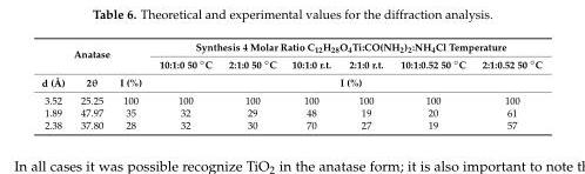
<table><thead><tr><td rowspan="2" colspan="3">Anatase</td><td colspan="6">Synthesis 4 Molar Ratio C<sub>12</sub>H<sub>28</sub>O<sub>4</sub>Ti:CO(NH<sub>2</sub>)<sub>2</sub>:NH<sub>4</sub>Cl Temperature</td></tr><tr><td>10:1:0 50 ◦C</td><td>2:1:0 50 ◦C</td><td>10:1:0 r.t.</td><td>2:1:0 r.t.</td><td>10:1:0.52 50 ◦C</td><td>2:1:0.52 50 ◦C</td></tr><tr><td>d (Å)</td><td>2θ</td><td>I (%)</td><td colspan="6">I (%)</td></tr></thead><tbody><tr><td>3.52</td><td>25.25</td><td>100</td><td>100</td><td>100</td><td>100</td><td>100</td><td>100</td><td>100</td></tr><tr><td>1.89</td><td>47.97</td><td>35</td><td>32</td><td>29</td><td>48</td><td>19</td><td>20</td><td>61</td></tr><tr><td>2.38</td><td>37.80</td><td>28</td><td>32</td><td>30</td><td>70</td><td>27</td><td>19</td><td>57</td></tr></tbody></table>